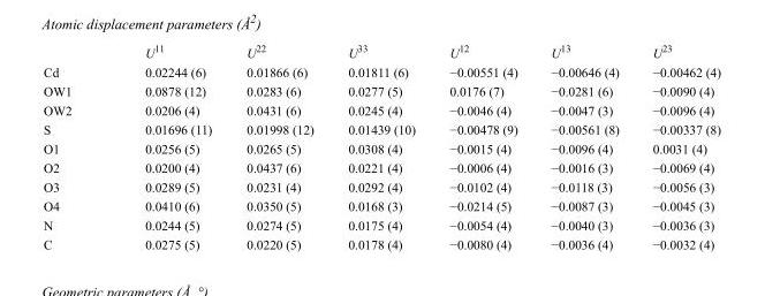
<table><thead><tr><td></td><td>U<sup>11</sup></td><td>U<sup>22</sup></td><td>U<sup>33</sup></td><td>U<sup>12</sup></td><td>U<sup>13</sup></td><td>U<sup>23</sup></td></tr></thead><tbody><tr><td>Cd</td><td>0.02244 (6)</td><td>0.01866 (6)</td><td>0.01811 (6)</td><td>−0.00551 (4)</td><td>−0.00646 (4)</td><td>−0.00462 (4)</td></tr><tr><td>OW1</td><td>0.0878 (12)</td><td>0.0283 (6)</td><td>0.0277 (5)</td><td>0.0176 (7)</td><td>−0.0281 (6)</td><td>−0.0090 (4)</td></tr><tr><td>OW2</td><td>0.0206 (4)</td><td>0.0431 (6)</td><td>0.0245 (4)</td><td>−0.0046 (4)</td><td>−0.0047 (3)</td><td>−0.0096 (4)</td></tr><tr><td>S</td><td>0.01696 (11)</td><td>0.01998 (12)</td><td>0.01439 (10)</td><td>−0.00478 (9)</td><td>−0.00561 (8)</td><td>−0.00337 (8)</td></tr><tr><td>O1</td><td>0.0256 (5)</td><td>0.0265 (5)</td><td>0.0308 (4)</td><td>−0.0015 (4)</td><td>−0.0096 (4)</td><td>0.0031 (4)</td></tr><tr><td>O2</td><td>0.0200 (4)</td><td>0.0437 (6)</td><td>0.0221 (4)</td><td>−0.0006 (4)</td><td>−0.0016 (3)</td><td>−0.0069 (4)</td></tr><tr><td>O3</td><td>0.0289 (5)</td><td>0.0231 (4)</td><td>0.0292 (4)</td><td>−0.0102 (4)</td><td>−0.0118 (3)</td><td>−0.0056 (3)</td></tr><tr><td>O4</td><td>0.0410 (6)</td><td>0.0350 (5)</td><td>0.0168 (3)</td><td>−0.0214 (5)</td><td>−0.0087 (3)</td><td>−0.0045 (3)</td></tr><tr><td>N</td><td>0.0244 (5)</td><td>0.0274 (5)</td><td>0.0175 (4)</td><td>−0.0054 (4)</td><td>−0.0040 (3)</td><td>−0.0036 (3)</td></tr><tr><td>C</td><td>0.0275 (5)</td><td>0.0220 (5)</td><td>0.0178 (4)</td><td>−0.0080 (4)</td><td>−0.0036 (4)</td><td>−0.0032 (4)</td></tr></tbody></table>